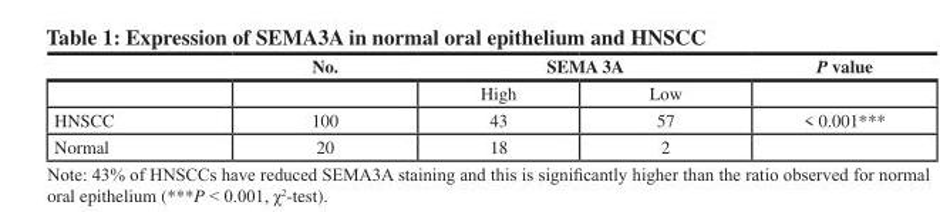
<table><thead><tr><td rowspan="2"></td><td rowspan="2">No.</td><td colspan="2">SEMA 3A</td><td rowspan="2">P value</td></tr><tr><td>High</td><td>Low</td></tr></thead><tbody><tr><td>HNSCC</td><td>100</td><td>43</td><td>57</td><td>&lt; 0.001***</td></tr><tr><td>Normal</td><td>20</td><td>18</td><td>2</td><td></td></tr></tbody></table>